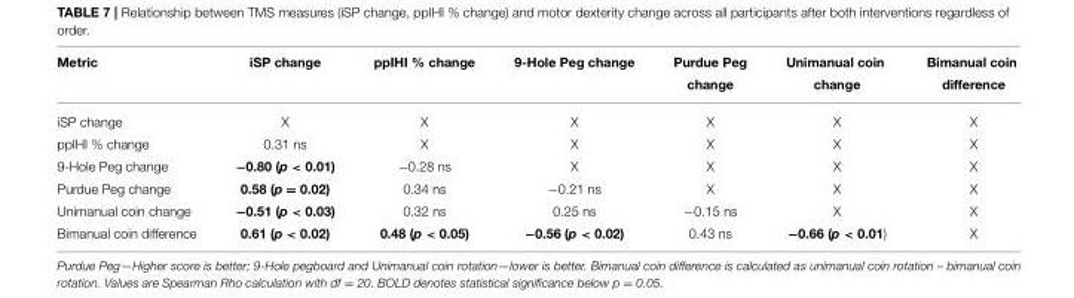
<table><thead><tr><td>Metric</td><td>iSP change</td><td>ppIHI % change</td><td>9-Hole Peg change</td><td>Purdue Peg change</td><td>Unimanual coin change</td><td>Bimanual coin difference</td></tr></thead><tbody><tr><td>iSP change</td><td>X</td><td>X</td><td>X</td><td>X</td><td>X</td><td>X</td></tr><tr><td>ppIHI % change</td><td>0.31 ns</td><td>X</td><td>X</td><td>X</td><td>X</td><td>X</td></tr><tr><td>9-Hole Peg change</td><td>−0.80 (p &lt; 0.01)</td><td>−0.28 ns</td><td>X</td><td>X</td><td>X</td><td>X</td></tr><tr><td>Purdue Peg change</td><td>0.58 (p = 0.02)</td><td>0.34 ns</td><td>−0.21 ns</td><td>X</td><td>X</td><td>X</td></tr><tr><td>Unimanual coin change</td><td>−0.51 (p &lt; 0.03)</td><td>0.32 ns</td><td>0.25 ns</td><td>−0.15 ns</td><td>X</td><td>X</td></tr><tr><td>Bimanual coin difference</td><td>0.61 (p &lt; 0.02)</td><td>0.48 (p &lt; 0.05)</td><td>−0.56 (p &lt; 0.02)</td><td>0.43 ns</td><td>−0.66 (p &lt; 0.01)</td><td>X</td></tr></tbody></table>